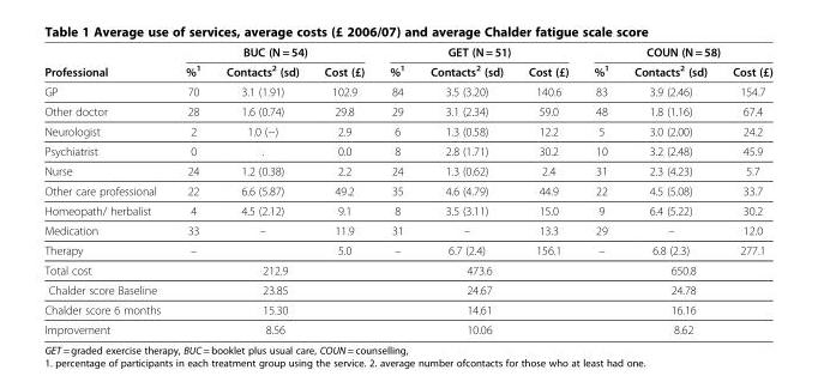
<table><thead><tr><td rowspan="2">Professional</td><td colspan="3">BUC (N = 54)</td><td colspan="3">GET (N = 51)</td><td colspan="3">COUN (N = 58)</td></tr><tr><td>%<sup>1</sup></td><td>Contacts<sup>2</sup> (sd)</td><td>Cost (£)</td><td>%<sup>1</sup></td><td>Contacts<sup>2</sup> (sd)</td><td>Cost (£)</td><td>%<sup>1</sup></td><td>Contacts<sup>2</sup> (sd)</td><td>Cost (£)</td></tr></thead><tbody><tr><td>GP</td><td>70</td><td>3.1 (1.91)</td><td>102.9</td><td>84</td><td>3.5 (3.20)</td><td>140.6</td><td>83</td><td>3.9 (2.46)</td><td>154.7</td></tr><tr><td>Other doctor</td><td>28</td><td>1.6 (0.74)</td><td>29.8</td><td>29</td><td>3.1 (2.34)</td><td>59.0</td><td>48</td><td>1.8 (1.16)</td><td>67.4</td></tr><tr><td>Neurologist</td><td>2</td><td>1.0 (−)</td><td>2.9</td><td>6</td><td>1.3 (0.58)</td><td>12.2</td><td>5</td><td>3.0 (2.00)</td><td>24.2</td></tr><tr><td>Psychiatrist</td><td>0</td><td>.</td><td>0.0</td><td>8</td><td>2.8 (1.71)</td><td>30.2</td><td>10</td><td>3.2 (2.48)</td><td>45.9</td></tr><tr><td>Nurse</td><td>24</td><td>1.2 (0.38)</td><td>2.2</td><td>24</td><td>1.3 (0.62)</td><td>2.4</td><td>31</td><td>2.3 (4.23)</td><td>5.7</td></tr><tr><td>Other care professional</td><td>22</td><td>6.6 (5.87)</td><td>49.2</td><td>35</td><td>4.6 (4.79)</td><td>44.9</td><td>22</td><td>4.5 (5.08)</td><td>33.7</td></tr><tr><td>Homeopath/ herbalist</td><td>4</td><td>4.5 (2.12)</td><td>9.1</td><td>8</td><td>3.5 (3.11)</td><td>15.0</td><td>9</td><td>6.4 (5.22)</td><td>30.2</td></tr><tr><td>Medication</td><td>33</td><td>–</td><td>11.9</td><td>31</td><td>–</td><td>13.3</td><td>29</td><td>–</td><td>12.0</td></tr><tr><td>Therapy</td><td>–</td><td></td><td>5.0</td><td>–</td><td>6.7 (2.4)</td><td>156.1</td><td>–</td><td>6.8 (2.3)</td><td>277.1</td></tr><tr><td>Total cost</td><td colspan="3">212.9</td><td colspan="3">473.6</td><td colspan="3">650.8</td></tr><tr><td>Chalder score Baseline</td><td colspan="3">23.85</td><td colspan="3">24.67</td><td colspan="3">24.78</td></tr><tr><td>Chalder score 6 months</td><td colspan="3">15.30</td><td colspan="3">14.61</td><td colspan="3">16.16</td></tr><tr><td>Improvement</td><td colspan="3">8.56</td><td colspan="3">10.06</td><td colspan="3">8.62</td></tr></tbody></table>